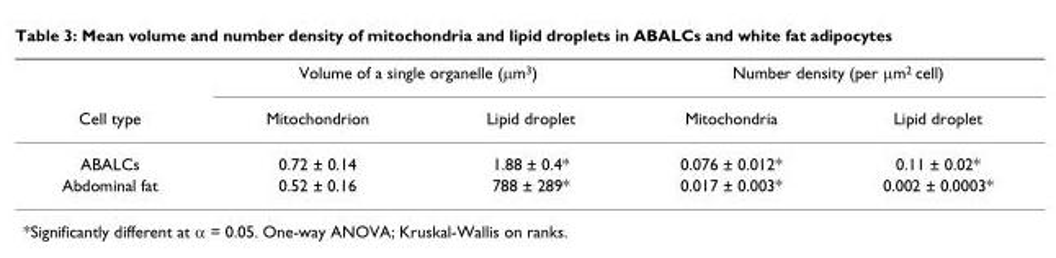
<table><thead><tr><td rowspan="2">Cell type</td><td colspan="2">Volume of a single organelle (μm<sup>3</sup>)</td><td colspan="2">Number density (per μm<sup>2</sup> cell)</td></tr><tr><td>Mitochondrion</td><td>Lipid droplet</td><td>Mitochondria</td><td>Lipid droplet</td></tr></thead><tbody><tr><td>ABALCs</td><td>0.72 ± 0.14</td><td>1.88 ± 0.4*</td><td>0.076 ± 0.012*</td><td>0.11 ± 0.02*</td></tr><tr><td>Abdominal fat</td><td>0.52 ± 0.16</td><td>788 ± 289*</td><td>0.017 ± 0.003*</td><td>0.002 ± 0.0003*</td></tr></tbody></table>